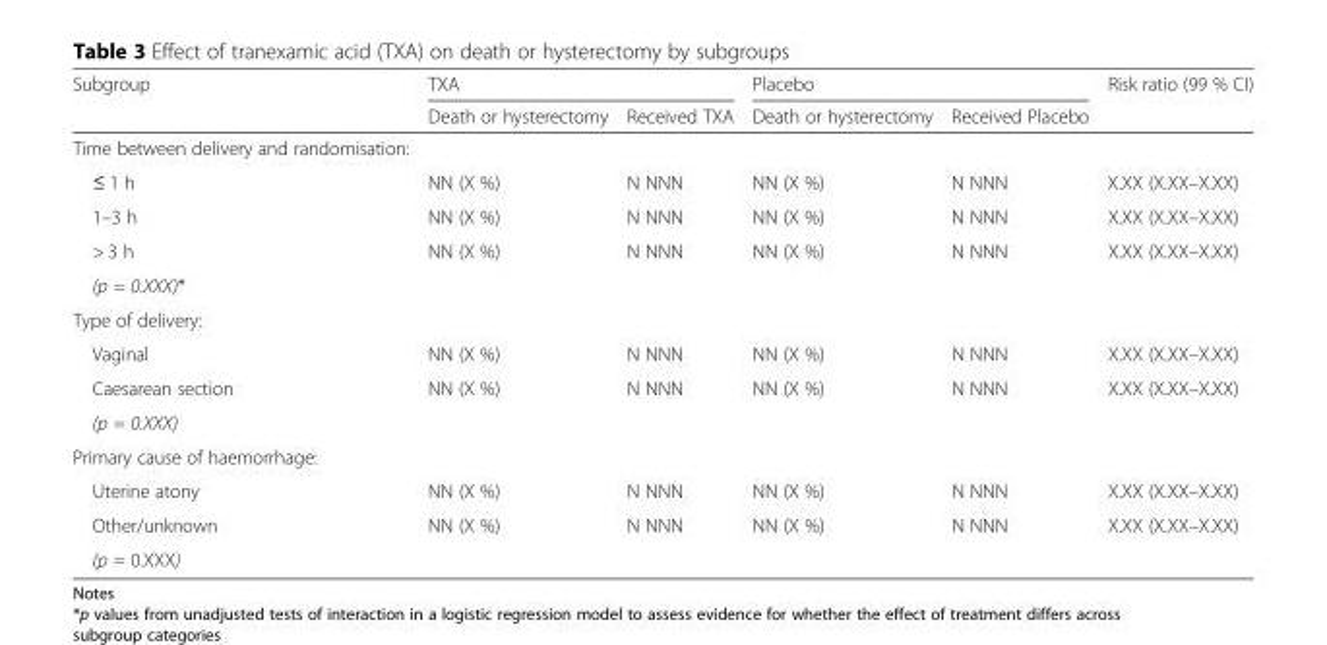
<table><thead><tr><td rowspan="2">Subgroup</td><td colspan="2">TXA</td><td colspan="2">Placebo</td><td rowspan="2">Risk ratio (99 % CI)</td></tr><tr><td>Death or hysterectomy</td><td>Received TXA</td><td>Death or hysterectomy</td><td>Received Placebo</td></tr></thead><tbody><tr><td colspan="6">Time between delivery and randomisation:</td></tr><tr><td>≤ 1 h</td><td>NN (X %)</td><td>N NNN</td><td>NN (X %)</td><td>N NNN</td><td>X.XX (X.XX–X.XX)</td></tr><tr><td>1–3 h</td><td>NN (X %)</td><td>N NNN</td><td>NN (X %)</td><td>N NNN</td><td>X.XX (X.XX–X.XX)</td></tr><tr><td>&gt; 3 h</td><td>NN (X %)</td><td>N NNN</td><td>NN (X %)</td><td>N NNN</td><td>X.XX (X.XX–X.XX)</td></tr><tr><td colspan="6">(p = 0.XXX)*</td></tr><tr><td colspan="6">Type of delivery:</td></tr><tr><td>Vaginal</td><td>NN (X %)</td><td>N NNN</td><td>NN (X %)</td><td>N NNN</td><td>X.XX (X.XX–X.XX)</td></tr><tr><td>Caesarean section</td><td>NN (X %)</td><td>N NNN</td><td>NN (X %)</td><td>N NNN</td><td>X.XX (X.XX–X.XX)</td></tr><tr><td colspan="6">(p = 0.XXX)</td></tr><tr><td colspan="6">Primary cause of haemorrhage:</td></tr><tr><td>Uterine atony</td><td>NN (X %)</td><td>N NNN</td><td>NN (X %)</td><td>N NNN</td><td>X.XX (X.XX–X.XX)</td></tr><tr><td>Other/unknown</td><td>NN (X %)</td><td>N NNN</td><td>NN (X %)</td><td>N NNN</td><td>X.XX (X.XX–X.XX)</td></tr><tr><td>(p = 0.XXX)</td><td></td><td></td><td></td><td></td><td></td></tr></tbody></table>